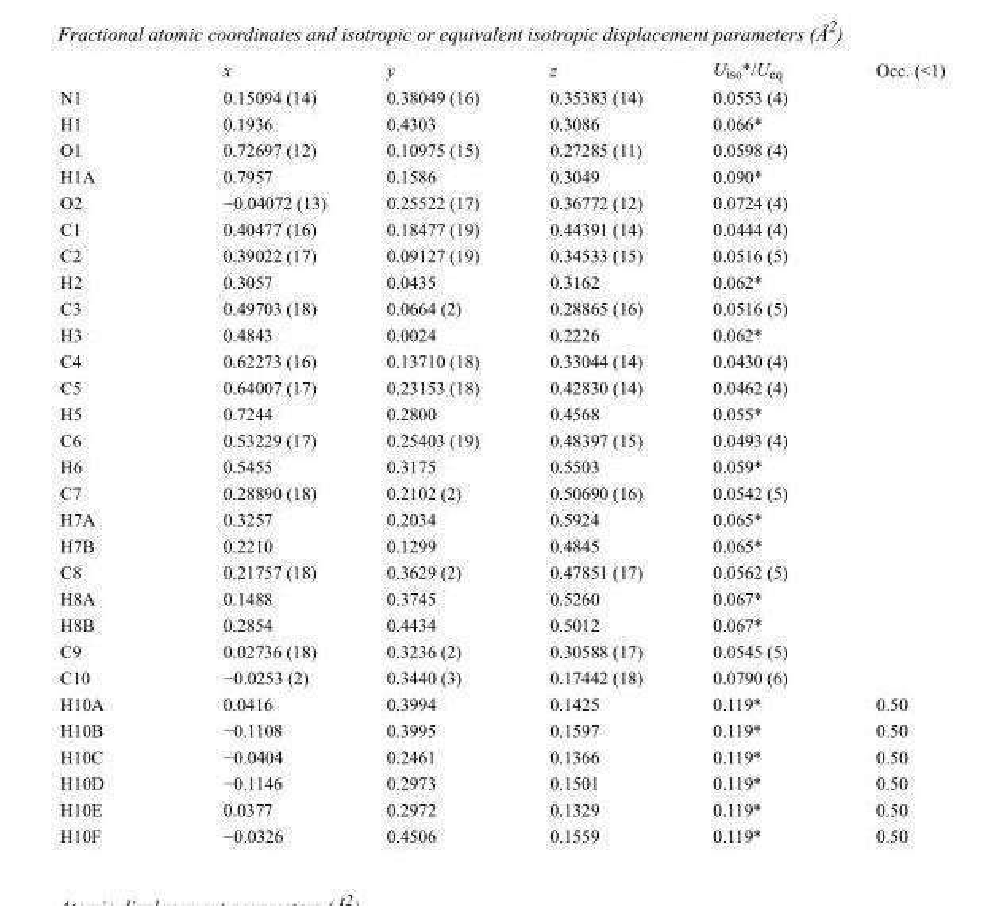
<table><thead><tr><td></td><td>x</td><td>y</td><td>z</td><td>U<sub>iso</sub>*/U<sub>eq</sub></td><td>Occ. (&lt;1)</td></tr></thead><tbody><tr><td>N1</td><td>0.15094 (14)</td><td>0.38049 (16)</td><td>0.35383 (14)</td><td>0.0553 (4)</td><td></td></tr><tr><td>H1</td><td>0.1936</td><td>0.4303</td><td>0.3086</td><td>0.066*</td><td></td></tr><tr><td>O1</td><td>0.72697 (12)</td><td>0.10975 (15)</td><td>0.27285 (11)</td><td>0.0598 (4)</td><td></td></tr><tr><td>H1A</td><td>0.7957</td><td>0.1586</td><td>0.3049</td><td>0.090*</td><td></td></tr><tr><td>O2</td><td>−0.04072 (13)</td><td>0.25522 (17)</td><td>0.36772 (12)</td><td>0.0724 (4)</td><td></td></tr><tr><td>C1</td><td>0.40477 (16)</td><td>0.18477 (19)</td><td>0.44391 (14)</td><td>0.0444 (4)</td><td></td></tr><tr><td>C2</td><td>0.39022 (17)</td><td>0.09127 (19)</td><td>0.34533 (15)</td><td>0.0516 (5)</td><td></td></tr><tr><td>H2</td><td>0.3057</td><td>0.0435</td><td>0.3162</td><td>0.062*</td><td></td></tr><tr><td>C3</td><td>0.49703 (18)</td><td>0.0664 (2)</td><td>0.28865 (16)</td><td>0.0516 (5)</td><td></td></tr><tr><td>H3</td><td>0.4843</td><td>0.0024</td><td>0.2226</td><td>0.062*</td><td></td></tr><tr><td>C4</td><td>0.62273 (16)</td><td>0.13710 (18)</td><td>0.33044 (14)</td><td>0.0430 (4)</td><td></td></tr><tr><td>C5</td><td>0.64007 (17)</td><td>0.23153 (18)</td><td>0.42830 (14)</td><td>0.0462 (4)</td><td></td></tr><tr><td>H5</td><td>0.7244</td><td>0.2800</td><td>0.4568</td><td>0.055*</td><td></td></tr><tr><td>C6</td><td>0.53229 (17)</td><td>0.25403 (19)</td><td>0.48397 (15)</td><td>0.0493 (4)</td><td></td></tr><tr><td>H6</td><td>0.5455</td><td>0.3175</td><td>0.5503</td><td>0.059*</td><td></td></tr><tr><td>C7</td><td>0.28890 (18)</td><td>0.2102 (2)</td><td>0.50690 (16)</td><td>0.0542 (5)</td><td></td></tr><tr><td>H7A</td><td>0.3257</td><td>0.2034</td><td>0.5924</td><td>0.065*</td><td></td></tr><tr><td>H7B</td><td>0.2210</td><td>0.1299</td><td>0.4845</td><td>0.065*</td><td></td></tr><tr><td>C8</td><td>0.21757 (18)</td><td>0.3629 (2)</td><td>0.47851 (17)</td><td>0.0562 (5)</td><td></td></tr><tr><td>H8A</td><td>0.1488</td><td>0.3745</td><td>0.5260</td><td>0.067*</td><td></td></tr><tr><td>H8B</td><td>0.2854</td><td>0.4434</td><td>0.5012</td><td>0.067*</td><td></td></tr><tr><td>C9</td><td>0.02736 (18)</td><td>0.3236 (2)</td><td>0.30588 (17)</td><td>0.0545 (5)</td><td></td></tr><tr><td>C10</td><td>−0.0253 (2)</td><td>0.3440 (3)</td><td>0.17442 (18)</td><td>0.0790 (6)</td><td></td></tr><tr><td>H10A</td><td>0.0416</td><td>0.3994</td><td>0.1425</td><td>0.119*</td><td>0.50</td></tr><tr><td>H10B</td><td>−0.1108</td><td>0.3995</td><td>0.1597</td><td>0.119*</td><td>0.50</td></tr><tr><td>H10C</td><td>−0.0404</td><td>0.2461</td><td>0.1366</td><td>0.119*</td><td>0.50</td></tr><tr><td>H10D</td><td>−0.1146</td><td>0.2973</td><td>0.1501</td><td>0.119*</td><td>0.50</td></tr><tr><td>H10E</td><td>0.0377</td><td>0.2972</td><td>0.1329</td><td>0.119*</td><td>0.50</td></tr><tr><td>H10F</td><td>−0.0326</td><td>0.4506</td><td>0.1559</td><td>0.119*</td><td>0.50</td></tr></tbody></table>